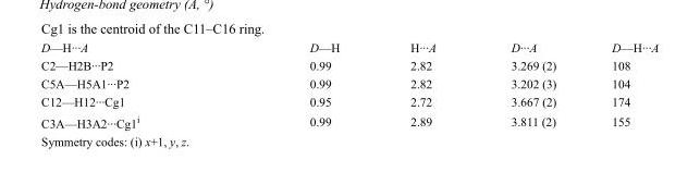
<table><tbody><tr><td>D—H···A</td><td>D—H</td><td>H···A</td><td>D···A</td><td>D—H···A</td></tr><tr><td>C2—H2B···P2</td><td>0.99</td><td>2.82</td><td>3.269 (2)</td><td>108</td></tr><tr><td>C5A—H5A1···P2</td><td>0.99</td><td>2.82</td><td>3.202 (3)</td><td>104</td></tr><tr><td>C12—H12···Cg1</td><td>0.95</td><td>2.72</td><td>3.667 (2)</td><td>174</td></tr><tr><td>C3A—H3A2···Cg1<sup>i</sup></td><td>0.99</td><td>2.89</td><td>3.811 (2)</td><td>155</td></tr></tbody></table>